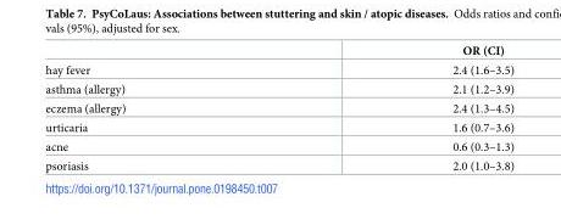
<table><thead><tr><td></td><td>OR (CI)</td></tr></thead><tbody><tr><td>hay fever</td><td>2.4 (1.6–3.5)</td></tr><tr><td>asthma (allergy)</td><td>2.1 (1.2–3.9)</td></tr><tr><td>eczema (allergy)</td><td>2.4 (1.3–4.5)</td></tr><tr><td>urticaria</td><td>1.6 (0.7–3.6)</td></tr><tr><td>acne</td><td>0.6 (0.3–1.3)</td></tr><tr><td>psoriasis</td><td>2.0 (1.0–3.8)</td></tr></tbody></table>